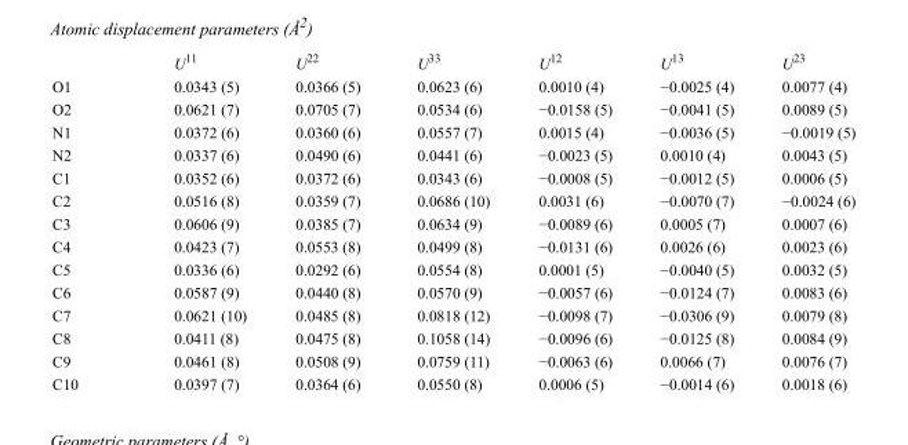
<table><thead><tr><td></td><td>U<sup>11</sup></td><td>U<sup>22</sup></td><td>U<sup>33</sup></td><td>U<sup>12</sup></td><td>U<sup>13</sup></td><td>U<sup>23</sup></td></tr></thead><tbody><tr><td>O1</td><td>0.0343 (5)</td><td>0.0366 (5)</td><td>0.0623 (6)</td><td>0.0010 (4)</td><td>−0.0025 (4)</td><td>0.0077 (4)</td></tr><tr><td>O2</td><td>0.0621 (7)</td><td>0.0705 (7)</td><td>0.0534 (6)</td><td>−0.0158 (5)</td><td>−0.0041 (5)</td><td>0.0089 (5)</td></tr><tr><td>N1</td><td>0.0372 (6)</td><td>0.0360 (6)</td><td>0.0557 (7)</td><td>0.0015 (4)</td><td>−0.0036 (5)</td><td>−0.0019 (5)</td></tr><tr><td>N2</td><td>0.0337 (6)</td><td>0.0490 (6)</td><td>0.0441 (6)</td><td>−0.0023 (5)</td><td>0.0010 (4)</td><td>0.0043 (5)</td></tr><tr><td>C1</td><td>0.0352 (6)</td><td>0.0372 (6)</td><td>0.0343 (6)</td><td>−0.0008 (5)</td><td>−0.0012 (5)</td><td>0.0006 (5)</td></tr><tr><td>C2</td><td>0.0516 (8)</td><td>0.0359 (7)</td><td>0.0686 (10)</td><td>0.0031 (6)</td><td>−0.0070 (7)</td><td>−0.0024 (6)</td></tr><tr><td>C3</td><td>0.0606 (9)</td><td>0.0385 (7)</td><td>0.0634 (9)</td><td>−0.0089 (6)</td><td>0.0005 (7)</td><td>0.0007 (6)</td></tr><tr><td>C4</td><td>0.0423 (7)</td><td>0.0553 (8)</td><td>0.0499 (8)</td><td>−0.0131 (6)</td><td>0.0026 (6)</td><td>0.0023 (6)</td></tr><tr><td>C5</td><td>0.0336 (6)</td><td>0.0292 (6)</td><td>0.0554 (8)</td><td>0.0001 (5)</td><td>−0.0040 (5)</td><td>0.0032 (5)</td></tr><tr><td>C6</td><td>0.0587 (9)</td><td>0.0440 (8)</td><td>0.0570 (9)</td><td>−0.0057 (6)</td><td>−0.0124 (7)</td><td>0.0083 (6)</td></tr><tr><td>C7</td><td>0.0621 (10)</td><td>0.0485 (8)</td><td>0.0818 (12)</td><td>−0.0098 (7)</td><td>−0.0306 (9)</td><td>0.0079 (8)</td></tr><tr><td>C8</td><td>0.0411 (8)</td><td>0.0475 (8)</td><td>0.1058 (14)</td><td>−0.0096 (6)</td><td>−0.0125 (8)</td><td>0.0084 (9)</td></tr><tr><td>C9</td><td>0.0461 (8)</td><td>0.0508 (9)</td><td>0.0759 (11)</td><td>−0.0063 (6)</td><td>0.0066 (7)</td><td>0.0076 (7)</td></tr><tr><td>C10</td><td>0.0397 (7)</td><td>0.0364 (6)</td><td>0.0550 (8)</td><td>0.0006 (5)</td><td>−0.0014 (6)</td><td>0.0018 (6)</td></tr></tbody></table>